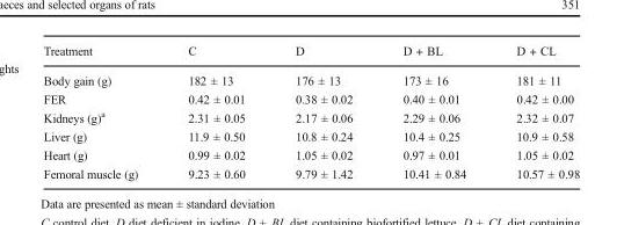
<table><thead><tr><td>Treatment</td><td>C</td><td>D</td><td>D + BL</td><td>D + CL</td></tr></thead><tbody><tr><td>Body gain (g)</td><td>182 ± 13</td><td>176 ± 13</td><td>173 ± 16</td><td>181 ± 11</td></tr><tr><td>FER</td><td>0.42 ± 0.01</td><td>0.38 ± 0.02</td><td>0.40 ± 0.01</td><td>0.42 ± 0.00</td></tr><tr><td>Kidneys (g)<sup>a</sup></td><td>2.31 ± 0.05</td><td>2.17 ± 0.06</td><td>2.29 ± 0.06</td><td>2.32 ± 0.07</td></tr><tr><td>Liver (g)</td><td>11.9 ± 0.50</td><td>10.8 ± 0.24</td><td>10.4 ± 0.25</td><td>10.9 ± 0.58</td></tr><tr><td>Heart (g)</td><td>0.99 ± 0.02</td><td>1.05 ± 0.02</td><td>0.97 ± 0.01</td><td>1.05 ± 0.02</td></tr><tr><td>Femoral muscle (g)</td><td>9.23 ± 0.60</td><td>9.79 ± 1.42</td><td>10.41 ± 0.84</td><td>10.57 ± 0.98</td></tr></tbody></table>